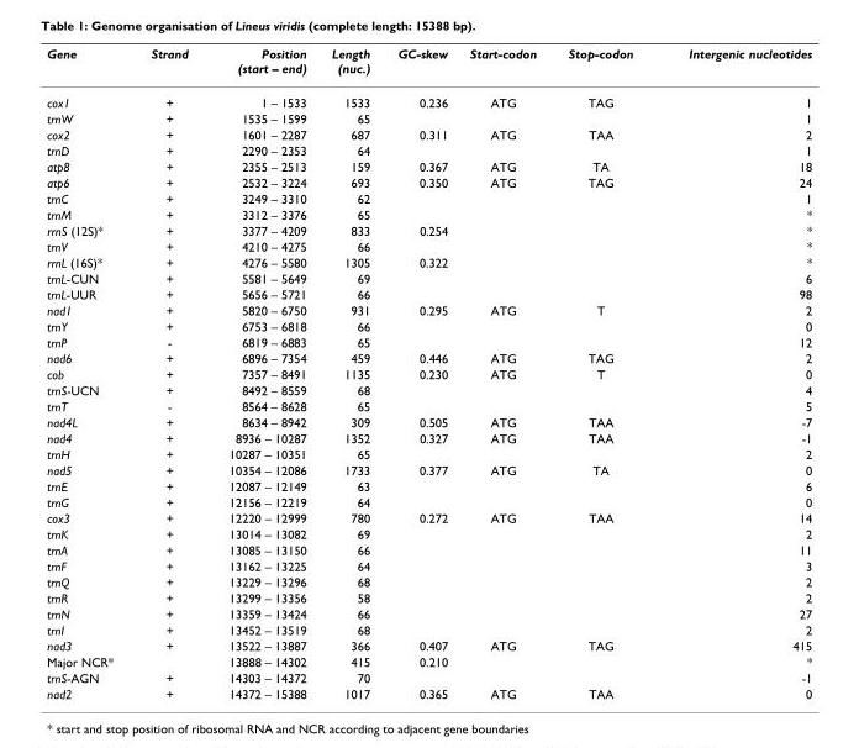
<table><thead><tr><td>Gene</td><td>Strand</td><td>Position (start – end)</td><td>Length (nuc.)</td><td>GC-skew</td><td>Start-codon</td><td>Stop-codon</td><td>Intergenic nucleotides</td></tr></thead><tbody><tr><td>cox1</td><td>+</td><td>1 – 1533</td><td>1533</td><td>0.236</td><td>ATG</td><td>TAG</td><td>1</td></tr><tr><td>trnW</td><td>+</td><td>1535 – 1599</td><td>65</td><td></td><td></td><td></td><td>1</td></tr><tr><td>cox2</td><td>+</td><td>1601 – 2287</td><td>687</td><td>0.311</td><td>ATG</td><td>TAA</td><td>2</td></tr><tr><td>trnD</td><td>+</td><td>2290 – 2353</td><td>64</td><td></td><td></td><td></td><td>1</td></tr><tr><td>atp8</td><td>+</td><td>2355 – 2513</td><td>159</td><td>0.367</td><td>ATG</td><td>TA</td><td>18</td></tr><tr><td>atp6</td><td>+</td><td>2532 – 3224</td><td>693</td><td>0.350</td><td>ATG</td><td>TAG</td><td>24</td></tr><tr><td>trnC</td><td>+</td><td>3249 – 3310</td><td>62</td><td></td><td></td><td></td><td>1</td></tr><tr><td>trnM</td><td>+</td><td>3312 – 3376</td><td>65</td><td></td><td></td><td></td><td>*</td></tr><tr><td>rrnS (12S)*</td><td>+</td><td>3377 – 4209</td><td>833</td><td>0.254</td><td></td><td></td><td>*</td></tr><tr><td>trnV</td><td>+</td><td>4210 – 4275</td><td>66</td><td></td><td></td><td></td><td>*</td></tr><tr><td>rrnL (16S)*</td><td>+</td><td>4276 – 5580</td><td>1305</td><td>0.322</td><td></td><td></td><td>*</td></tr><tr><td>trnL-CUN</td><td>+</td><td>5581 – 5649</td><td>69</td><td></td><td></td><td></td><td>6</td></tr><tr><td>trnL-UUR</td><td>+</td><td>5656 – 5721</td><td>66</td><td></td><td></td><td></td><td>98</td></tr><tr><td>nad1</td><td>+</td><td>5820 – 6750</td><td>931</td><td>0.295</td><td>ATG</td><td>T</td><td>2</td></tr><tr><td>trnY</td><td>+</td><td>6753 – 6818</td><td>66</td><td></td><td></td><td></td><td>0</td></tr><tr><td>trnP</td><td>-</td><td>6819 – 6883</td><td>65</td><td></td><td></td><td></td><td>12</td></tr><tr><td>nad6</td><td>+</td><td>6896 – 7354</td><td>459</td><td>0.446</td><td>ATG</td><td>TAG</td><td>2</td></tr><tr><td>cob</td><td>+</td><td>7357 – 8491</td><td>1135</td><td>0.230</td><td>ATG</td><td>T</td><td>0</td></tr><tr><td>trnS-UCN</td><td>+</td><td>8492 – 8559</td><td>68</td><td></td><td></td><td></td><td>4</td></tr><tr><td>trnT</td><td>-</td><td>8564 – 8628</td><td>65</td><td></td><td></td><td></td><td>5</td></tr><tr><td>nad4L</td><td>+</td><td>8634 – 8942</td><td>309</td><td>0.505</td><td>ATG</td><td>TAA</td><td>-7</td></tr><tr><td>nad4</td><td>+</td><td>8936 – 10287</td><td>1352</td><td>0.327</td><td>ATG</td><td>TAA</td><td>-1</td></tr><tr><td>trnH</td><td>+</td><td>10287 – 10351</td><td>65</td><td></td><td></td><td></td><td>2</td></tr><tr><td>nad5</td><td>+</td><td>10354 – 12086</td><td>1733</td><td>0.377</td><td>ATG</td><td>TA</td><td>0</td></tr><tr><td>trnE</td><td>+</td><td>12087 – 12149</td><td>63</td><td></td><td></td><td></td><td>6</td></tr><tr><td>trnG</td><td>+</td><td>12156 – 12219</td><td>64</td><td></td><td></td><td></td><td>0</td></tr><tr><td>cox3</td><td>+</td><td>12220 – 12999</td><td>780</td><td>0.272</td><td>ATG</td><td>TAA</td><td>14</td></tr><tr><td>trnK</td><td>+</td><td>13014 – 13082</td><td>69</td><td></td><td></td><td></td><td>2</td></tr><tr><td>trnA</td><td>+</td><td>13085 – 13150</td><td>66</td><td></td><td></td><td></td><td>11</td></tr><tr><td>trnF</td><td>+</td><td>13162 – 13225</td><td>64</td><td></td><td></td><td></td><td>3</td></tr><tr><td>trnQ</td><td>+</td><td>13229 – 13296</td><td>68</td><td></td><td></td><td></td><td>2</td></tr><tr><td>trnR</td><td>+</td><td>13299 – 13356</td><td>58</td><td></td><td></td><td></td><td>2</td></tr><tr><td>trnN</td><td>+</td><td>13359 – 13424</td><td>66</td><td></td><td></td><td></td><td>27</td></tr><tr><td>trnI</td><td>+</td><td>13452 – 13519</td><td>68</td><td></td><td></td><td></td><td>2</td></tr><tr><td>nad3</td><td>+</td><td>13522 – 13887</td><td>366</td><td>0.407</td><td>ATG</td><td>TAG</td><td>415</td></tr><tr><td>Major NCR*</td><td></td><td>13888 – 14302</td><td>415</td><td>0.210</td><td></td><td></td><td>*</td></tr><tr><td>trnS-AGN</td><td>+</td><td>14303 – 14372</td><td>70</td><td></td><td></td><td></td><td>-1</td></tr><tr><td>nad2</td><td>+</td><td>14372 – 15388</td><td>1017</td><td>0.365</td><td>ATG</td><td>TAA</td><td>0</td></tr></tbody></table>